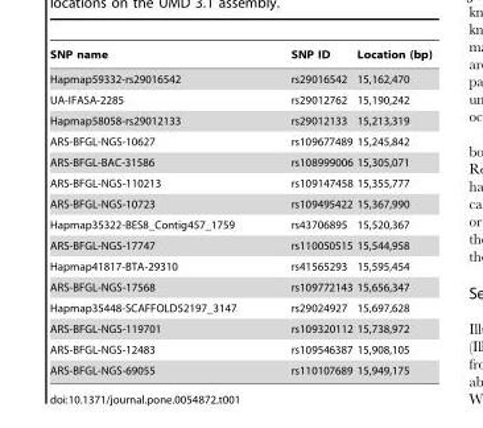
<table><thead><tr><td>SNP name</td><td>SNP ID</td><td>Location (bp)</td></tr></thead><tbody><tr><td>Hapmap59332-rs29016542</td><td>rs29016542</td><td>15,162,470</td></tr><tr><td>UA-IFASA-2285</td><td>rs29012762</td><td>15,190,242</td></tr><tr><td>Hapmap58058-rs29012133</td><td>rs29012133</td><td>15,213,319</td></tr><tr><td>ARS-BFGL-NGS-10627</td><td>rs109677489</td><td>15,245,842</td></tr><tr><td>ARS-BFGL-BAC-31586</td><td>rs108999006</td><td>15,305,071</td></tr><tr><td>ARS-BFGL-NGS-110213</td><td>rs109147458</td><td>15,355,777</td></tr><tr><td>ARS-BFGL-NGS-10723</td><td>rs109495422</td><td>15,367,990</td></tr><tr><td>Hapmap35322-BES8_Contig457_1759</td><td>rs43706895</td><td>15,520,367</td></tr><tr><td>ARS-BFGL-NGS-17747</td><td>rs110050515</td><td>15,544,958</td></tr><tr><td>Hapmap41817-BTA-29310</td><td>rs41565293</td><td>15,595,454</td></tr><tr><td>ARS-BFGL-NGS-17568</td><td>rs109772143</td><td>15,656,347</td></tr><tr><td>Hapmap35448-SCAFFOLD52197_3147</td><td>rs29024927</td><td>15,697,628</td></tr><tr><td>ARS-BFGL-NGS-119701</td><td>rs109320112</td><td>15,738,972</td></tr><tr><td>ARS-BFGL-NGS-12483</td><td>rs109546387</td><td>15,908,105</td></tr><tr><td>ARS-BFGL-NGS-69055</td><td>rs110107689</td><td>15,949,175</td></tr></tbody></table>